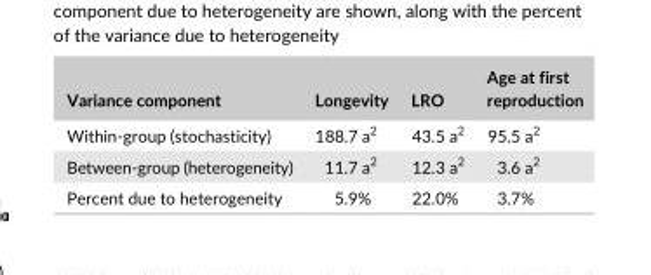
<table><thead><tr><td>Variance component</td><td>Longevity</td><td>LRO</td><td>Age at first reproduction</td></tr></thead><tbody><tr><td>Within-group (stochasticity)</td><td>188.7 a<sup>2</sup></td><td>43.5 a<sup>2</sup></td><td>95.5 a<sup>2</sup></td></tr><tr><td>Between-group (heterogeneity)</td><td>11.7 a<sup>2</sup></td><td>12.3 a<sup>2</sup></td><td>3.6 a<sup>2</sup></td></tr><tr><td>Percent due to heterogeneity</td><td>5.9%</td><td>22.0%</td><td>3.7%</td></tr></tbody></table>